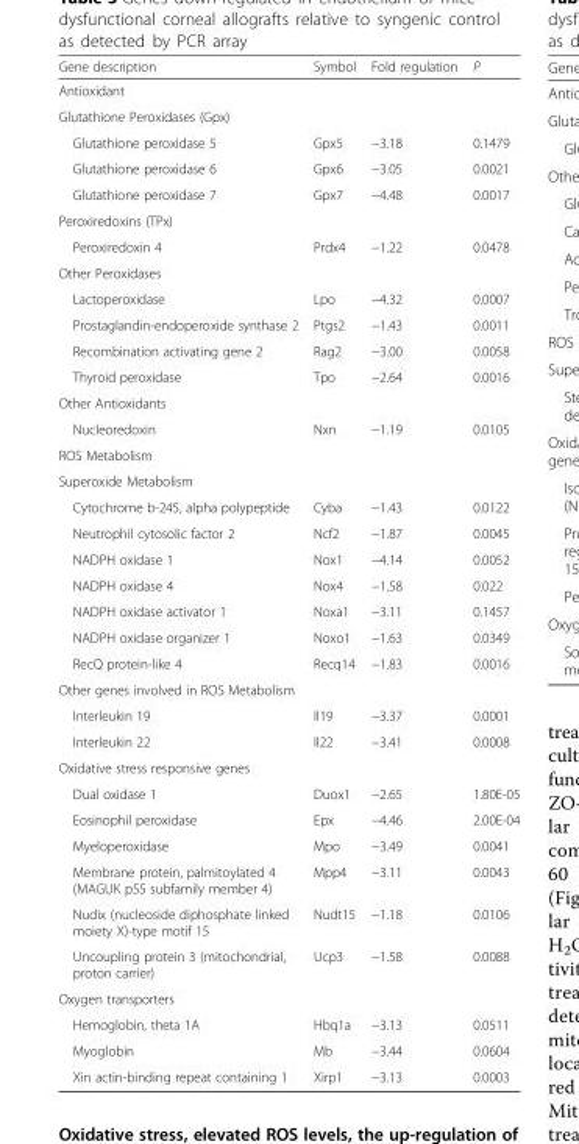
<table><thead><tr><td>Gene description</td><td>Symbol</td><td>Fold regulation</td><td>P</td></tr></thead><tbody><tr><td colspan="4">Antioxidant</td></tr><tr><td colspan="4">Glutathione Peroxidases (Gpx)</td></tr><tr><td>Glutathione peroxidase 5</td><td>Gpx5</td><td>−3.18</td><td>0.1479</td></tr><tr><td>Glutathione peroxidase 6</td><td>Gpx6</td><td>−3.05</td><td>0.0021</td></tr><tr><td>Glutathione peroxidase 7</td><td>Gpx7</td><td>−4.48</td><td>0.0017</td></tr><tr><td colspan="4">Peroxiredoxins (TPx)</td></tr><tr><td>Peroxiredoxin 4</td><td>Prdx4</td><td>−1.22</td><td>0.0478</td></tr><tr><td colspan="4">Other Peroxidases</td></tr><tr><td>Lactoperoxidase</td><td>Lpo</td><td>−4.32</td><td>0.0007</td></tr><tr><td>Prostaglandin-endoperoxide synthase 2</td><td>Ptgs2</td><td>−1.43</td><td>0.0011</td></tr><tr><td>Recombination activating gene 2</td><td>Rag2</td><td>−3.00</td><td>0.0058</td></tr><tr><td>Thyroid peroxidase</td><td>Tpo</td><td>−2.64</td><td>0.0016</td></tr><tr><td colspan="4">Other Antioxidants</td></tr><tr><td>Nucleoredoxin</td><td>Nxn</td><td>−1.19</td><td>0.0105</td></tr><tr><td colspan="4">ROS Metabolism</td></tr><tr><td colspan="4">Superoxide Metabolism</td></tr><tr><td>Cytochrome b-245, alpha polypeptide</td><td>Cyba</td><td>−1.43</td><td>0.0122</td></tr><tr><td>Neutrophil cytosolic factor 2</td><td>Ncf2</td><td>−1.87</td><td>0.0045</td></tr><tr><td>NADPH oxidase 1</td><td>Nox1</td><td>−4.14</td><td>0.0052</td></tr><tr><td>NADPH oxidase 4</td><td>Nox4</td><td>−1.58</td><td>0.022</td></tr><tr><td>NADPH oxidase activator 1</td><td>Noxa1</td><td>−3.11</td><td>0.1457</td></tr><tr><td>NADPH oxidase organizer 1</td><td>Noxo1</td><td>−1.63</td><td>0.0349</td></tr><tr><td>RecQ protein-like 4</td><td>Recq14</td><td>−1.83</td><td>0.0016</td></tr><tr><td colspan="4">Other genes involved in ROS Metabolism</td></tr><tr><td>Interleukin 19</td><td>Il19</td><td>−3.37</td><td>0.0001</td></tr><tr><td>Interleukin 22</td><td>Il22</td><td>−3.41</td><td>0.0008</td></tr><tr><td colspan="4">Oxidative stress responsive genes</td></tr><tr><td>Dual oxidase 1</td><td>Duox1</td><td>−2.65</td><td>1.80E-05</td></tr><tr><td>Eosinophil peroxidase</td><td>Epx</td><td>−4.46</td><td>2.00E-04</td></tr><tr><td>Myeloperoxidase</td><td>Mpo</td><td>−3.49</td><td>0.0041</td></tr><tr><td>Membrane protein, palmitoylated 4 (MAGUK p55 subfamily member 4)</td><td>Mpp4</td><td>−3.11</td><td>0.0043</td></tr><tr><td>Nudix (nucleoside diphosphate linked moiety X)-type motif 15</td><td>Nudt15</td><td>−1.18</td><td>0.0106</td></tr><tr><td>Uncoupling protein 3 (mitochondrial, proton carrier)</td><td>Ucp3</td><td>−1.58</td><td>0.0088</td></tr><tr><td colspan="4">Oxygen transporters</td></tr><tr><td>Hemoglobin, theta 1A</td><td>Hbq1a</td><td>−3.13</td><td>0.0511</td></tr><tr><td>Myoglobin</td><td>Mb</td><td>−3.44</td><td>0.0604</td></tr><tr><td>Xin actin-binding repeat containing 1</td><td>Xirp1</td><td>−3.13</td><td>0.0003</td></tr></tbody></table>